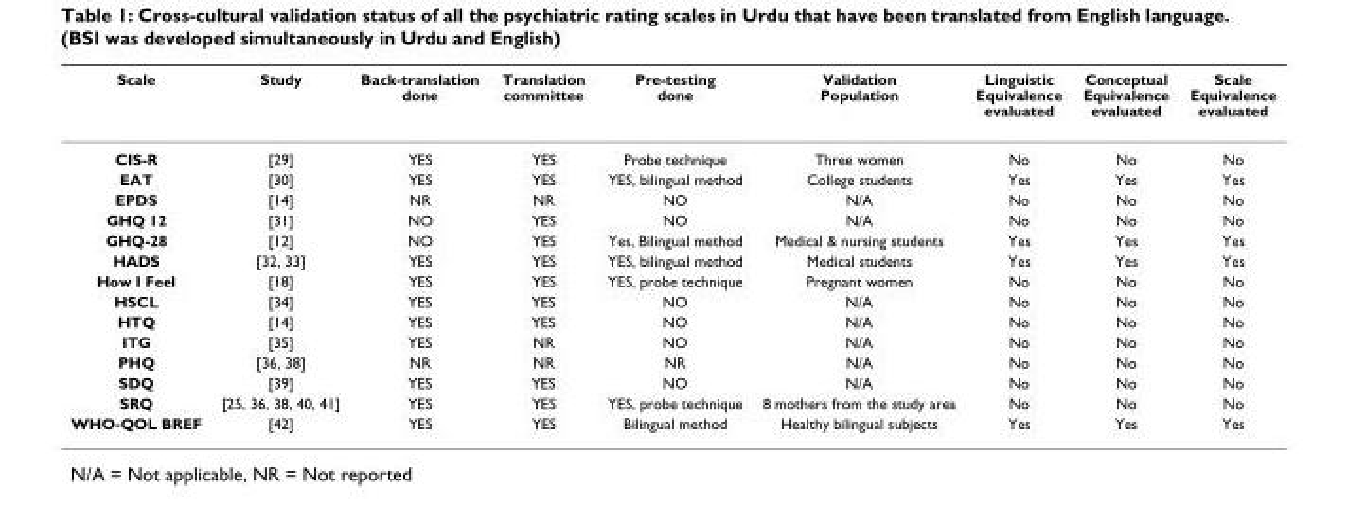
<table><thead><tr><td>Scale</td><td>Study</td><td>Back-translation done</td><td>Translation committee</td><td>Pre-testing done</td><td>Validation Population</td><td>Linguistic Equivalence evaluated</td><td>Conceptual Equivalence evaluated</td><td>Scale Equivalence evaluated</td></tr></thead><tbody><tr><td>CIS-R</td><td>[29]</td><td>YES</td><td>YES</td><td>Probe technique</td><td>Three women</td><td>No</td><td>No</td><td>No</td></tr><tr><td>EAT</td><td>[30]</td><td>YES</td><td>YES</td><td>YES, bilingual method</td><td>College students</td><td>Yes</td><td>Yes</td><td>Yes</td></tr><tr><td>EPDS</td><td>[14]</td><td>NR</td><td>NR</td><td>NO</td><td>N/A</td><td>No</td><td>No</td><td>No</td></tr><tr><td>GHQ 12</td><td>[31]</td><td>NO</td><td>YES</td><td>NO</td><td>N/A</td><td>No</td><td>No</td><td>No</td></tr><tr><td>GHQ-28</td><td>[12]</td><td>NO</td><td>YES</td><td>Yes, Bilingual method</td><td>Medical &amp; nursing students</td><td>Yes</td><td>Yes</td><td>Yes</td></tr><tr><td>HADS</td><td>[32, 33]</td><td>YES</td><td>YES</td><td>YES, bilingual method</td><td>Medical students</td><td>Yes</td><td>Yes</td><td>Yes</td></tr><tr><td>How I Feel</td><td>[18]</td><td>YES</td><td>YES</td><td>YES, probe technique</td><td>Pregnant women</td><td>No</td><td>No</td><td>No</td></tr><tr><td>HSCL</td><td>[34]</td><td>YES</td><td>YES</td><td>NO</td><td>N/A</td><td>No</td><td>No</td><td>No</td></tr><tr><td>HTQ</td><td>[14]</td><td>YES</td><td>YES</td><td>NO</td><td>N/A</td><td>No</td><td>No</td><td>No</td></tr><tr><td>ITG</td><td>[35]</td><td>YES</td><td>NR</td><td>NO</td><td>N/A</td><td>No</td><td>No</td><td>No</td></tr><tr><td>PHQ</td><td>[36, 38]</td><td>NR</td><td>NR</td><td>NR</td><td>N/A</td><td>No</td><td>No</td><td>No</td></tr><tr><td>SDQ</td><td>[39]</td><td>YES</td><td>YES</td><td>NO</td><td>N/A</td><td>No</td><td>No</td><td>No</td></tr><tr><td>SRQ</td><td>[25, 36, 38, 40, 41]</td><td>YES</td><td>YES</td><td>YES, probe technique</td><td>8 mothers from the study area</td><td>No</td><td>No</td><td>No</td></tr><tr><td>WHO-QOL BREF</td><td>[42]</td><td>YES</td><td>YES</td><td>Bilingual method</td><td>Healthy bilingual subjects</td><td>Yes</td><td>Yes</td><td>Yes</td></tr></tbody></table>